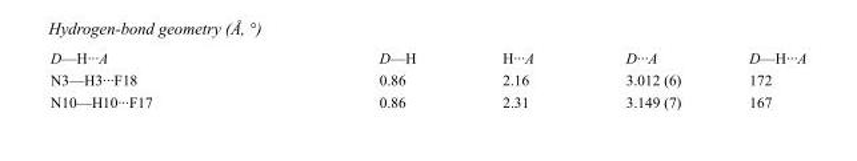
<table><tbody><tr><td>D—H···A</td><td>D—H</td><td>H···A</td><td>D···A</td><td>D—H···A</td></tr><tr><td>N3—H3···F18</td><td>0.86</td><td>2.16</td><td>3.012 (6)</td><td>172</td></tr><tr><td>N10—H10···F17</td><td>0.86</td><td>2.31</td><td>3.149 (7)</td><td>167</td></tr></tbody></table>